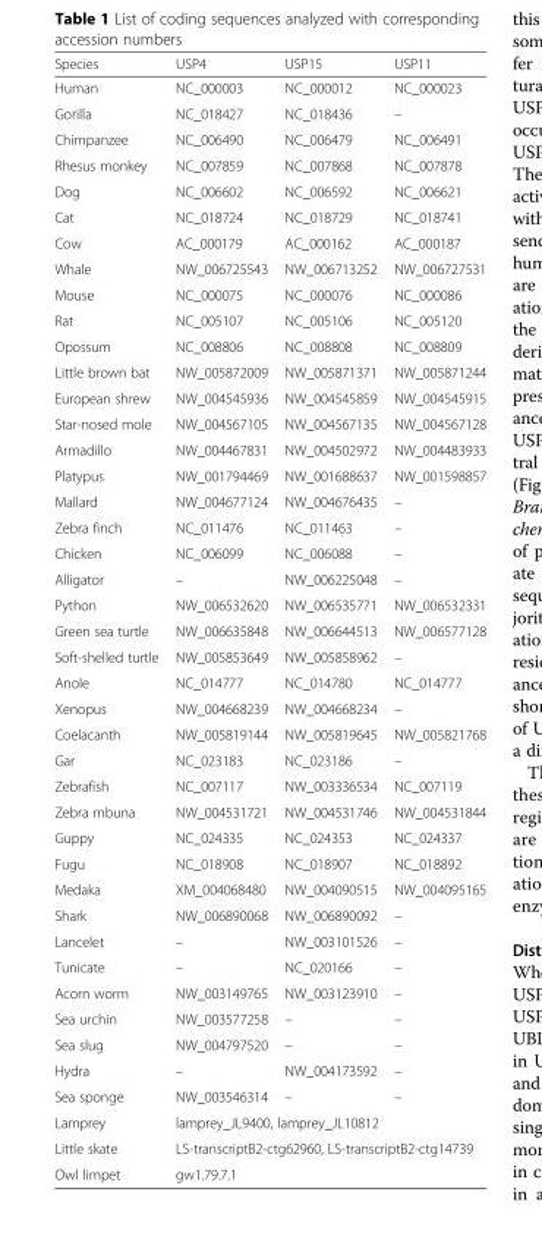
<table><thead><tr><td>Species</td><td>USP4</td><td>USP15</td><td>USP11</td></tr></thead><tbody><tr><td>Human</td><td>NC_000003</td><td>NC_000012</td><td>NC_000023</td></tr><tr><td>Gorilla</td><td>NC_018427</td><td>NC_018436</td><td>–</td></tr><tr><td>Chimpanzee</td><td>NC_006490</td><td>NC_006479</td><td>NC_006491</td></tr><tr><td>Rhesus monkey</td><td>NC_007859</td><td>NC_007868</td><td>NC_007878</td></tr><tr><td>Dog</td><td>NC_006602</td><td>NC_006592</td><td>NC_006621</td></tr><tr><td>Cat</td><td>NC_018724</td><td>NC_018729</td><td>NC_018741</td></tr><tr><td>Cow</td><td>AC_000179</td><td>AC_000162</td><td>AC_000187</td></tr><tr><td>Whale</td><td>NW_006725543</td><td>NW_006713252</td><td>NW_006727531</td></tr><tr><td>Mouse</td><td>NC_000075</td><td>NC_000076</td><td>NC_000086</td></tr><tr><td>Rat</td><td>NC_005107</td><td>NC_005106</td><td>NC_005120</td></tr><tr><td>Opossum</td><td>NC_008806</td><td>NC_008808</td><td>NC_008809</td></tr><tr><td>Little brown bat</td><td>NW_005872009</td><td>NW_005871371</td><td>NW_005871244</td></tr><tr><td>European shrew</td><td>NW_004545936</td><td>NW_004545859</td><td>NW_004545915</td></tr><tr><td>Star-nosed mole</td><td>NW_004567105</td><td>NW_004567135</td><td>NW_004567128</td></tr><tr><td>Armadillo</td><td>NW_004467831</td><td>NW_004502972</td><td>NW_004483933</td></tr><tr><td>Platypus</td><td>NW_001794469</td><td>NW_001688637</td><td>NW_001598857</td></tr><tr><td>Mallard</td><td>NW_004677124</td><td>NW_004676435</td><td>–</td></tr><tr><td>Zebra finch</td><td>NC_011476</td><td>NC_011463</td><td>–</td></tr><tr><td>Chicken</td><td>NC_006099</td><td>NC_006088</td><td>–</td></tr><tr><td>Alligator</td><td>–</td><td>NW_006225048</td><td>–</td></tr><tr><td>Python</td><td>NW_006532620</td><td>NW_006535771</td><td>NW_006532331</td></tr><tr><td>Green sea turtle</td><td>NW_006635848</td><td>NW_006644513</td><td>NW_006577128</td></tr><tr><td>Soft-shelled turtle</td><td>NW_005853649</td><td>NW_005858962</td><td>–</td></tr><tr><td>Anole</td><td>NC_014777</td><td>NC_014780</td><td>NC_014777</td></tr><tr><td>Xenopus</td><td>NW_004668239</td><td>NW_004668234</td><td>–</td></tr><tr><td>Coelacanth</td><td>NW_005819144</td><td>NW_005819645</td><td>NW_005821768</td></tr><tr><td>Gar</td><td>NC_023183</td><td>NC_023186</td><td>–</td></tr><tr><td>Zebrafish</td><td>NC_007117</td><td>NW_003336534</td><td>NC_007119</td></tr><tr><td>Zebra mbuna</td><td>NW_004531721</td><td>NW_004531746</td><td>NW_004531844</td></tr><tr><td>Guppy</td><td>NC_024335</td><td>NC_024353</td><td>NC_024337</td></tr><tr><td>Fugu</td><td>NC_018908</td><td>NC_018907</td><td>NC_018892</td></tr><tr><td>Medaka</td><td>XM_004068480</td><td>NW_004090515</td><td>NW_004095165</td></tr><tr><td>Shark</td><td>NW_006890068</td><td>NW_006890092</td><td>–</td></tr><tr><td>Lancelet</td><td>–</td><td>NW_003101526</td><td>–</td></tr><tr><td>Tunicate</td><td>–</td><td>NC_020166</td><td>–</td></tr><tr><td>Acorn worm</td><td>NW_003149765</td><td>NW_003123910</td><td>–</td></tr><tr><td>Sea urchin</td><td>NW_003577258</td><td>–</td><td>–</td></tr><tr><td>Sea slug</td><td>NW_004797520</td><td>–</td><td>–</td></tr><tr><td>Hydra</td><td>–</td><td>NW_004173592</td><td>–</td></tr><tr><td>Sea sponge</td><td>NW_003546314</td><td>–</td><td>–</td></tr><tr><td>Lamprey</td><td colspan="3">lamprey_JL9400, lamprey_JL10812</td></tr><tr><td>Little skate</td><td colspan="3">LS-transcriptB2-ctg62960, LS-transcriptB2-ctg14739</td></tr><tr><td>Owl limpet</td><td colspan="3">gw1.79.7.1</td></tr></tbody></table>